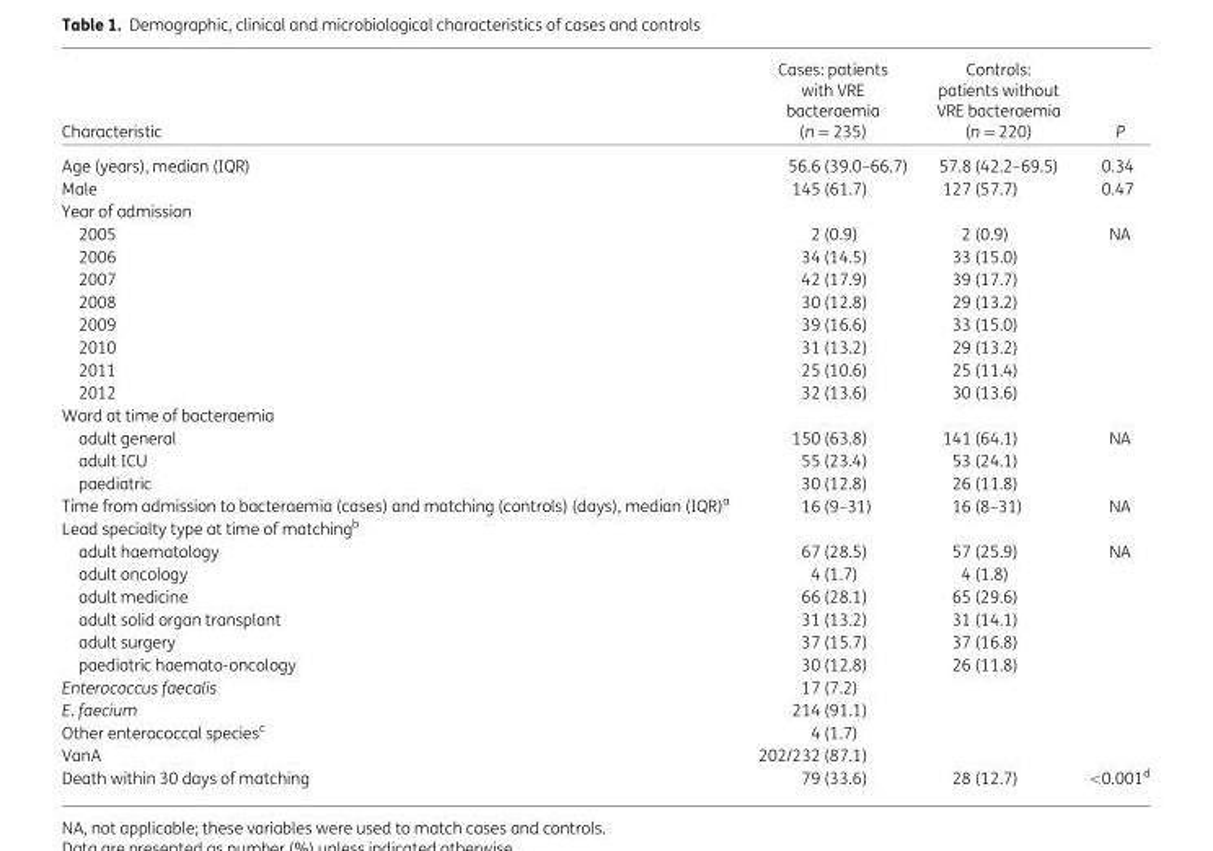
<table><thead><tr><td>Characteristic</td><td>Cases: patients with VRE bacteraemia (n = 235)</td><td>Controls: patients without VRE bacteraemia (n = 220)</td><td>P</td></tr></thead><tbody><tr><td>Age (years), median (IQR)</td><td>56.6 (39.0–66.7)</td><td>57.8 (42.2–69.5)</td><td>0.34</td></tr><tr><td>Male</td><td>145 (61.7)</td><td>127 (57.7)</td><td>0.47</td></tr><tr><td colspan="4">Year of admission</td></tr><tr><td>2005</td><td>2 (0.9)</td><td>2 (0.9)</td><td>NA</td></tr><tr><td>2006</td><td>34 (14.5)</td><td>33 (15.0)</td><td></td></tr><tr><td>2007</td><td>42 (17.9)</td><td>39 (17.7)</td><td></td></tr><tr><td>2008</td><td>30 (12.8)</td><td>29 (13.2)</td><td></td></tr><tr><td>2009</td><td>39 (16.6)</td><td>33 (15.0)</td><td></td></tr><tr><td>2010</td><td>31 (13.2)</td><td>29 (13.2)</td><td></td></tr><tr><td>2011</td><td>25 (10.6)</td><td>25 (11.4)</td><td></td></tr><tr><td>2012</td><td>32 (13.6)</td><td>30 (13.6)</td><td></td></tr><tr><td colspan="4">Ward at time of bacteraemia</td></tr><tr><td>adult general</td><td>150 (63.8)</td><td>141 (64.1)</td><td>NA</td></tr><tr><td>adult ICU</td><td>55 (23.4)</td><td>53 (24.1)</td><td></td></tr><tr><td>paediatric</td><td>30 (12.8)</td><td>26 (11.8)</td><td></td></tr><tr><td>Time from admission to bacteraemia (cases) and matching (controls) (days), median (IQR)<sup>a</sup></td><td>16 (9–31)</td><td>16 (8–31)</td><td>NA</td></tr><tr><td colspan="4">Lead specialty type at time of matching<sup>b</sup></td></tr><tr><td>adult haematology</td><td>67 (28.5)</td><td>57 (25.9)</td><td>NA</td></tr><tr><td>adult oncology</td><td>4 (1.7)</td><td>4 (1.8)</td><td></td></tr><tr><td>adult medicine</td><td>66 (28.1)</td><td>65 (29.6)</td><td></td></tr><tr><td>adult solid organ transplant</td><td>31 (13.2)</td><td>31 (14.1)</td><td></td></tr><tr><td>adult surgery</td><td>37 (15.7)</td><td>37 (16.8)</td><td></td></tr><tr><td>paediatric haemato-oncology</td><td>30 (12.8)</td><td>26 (11.8)</td><td></td></tr><tr><td>Enterococcus faecalis</td><td>17 (7.2)</td><td></td><td></td></tr><tr><td>E. faecium</td><td>214 (91.1)</td><td></td><td></td></tr><tr><td>Other enterococcal species<sup>c</sup></td><td>4 (1.7)</td><td></td><td></td></tr><tr><td>VanA</td><td>202/232 (87.1)</td><td></td><td></td></tr><tr><td>Death within 30 days of matching</td><td>79 (33.6)</td><td>28 (12.7)</td><td>&lt;0.001<sup>d</sup></td></tr></tbody></table>